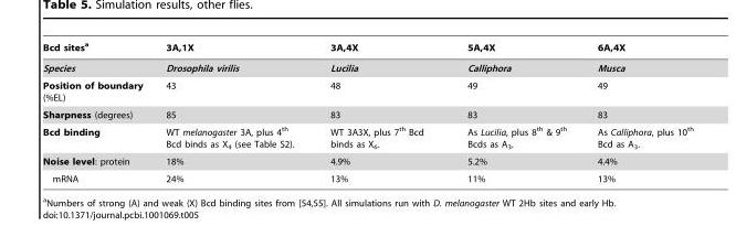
<table><thead><tr><td>Bcd sites<sup>a</sup></td><td>3A,1X</td><td>3A,4X</td><td>5A,4X</td><td>6A,4X</td></tr></thead><tbody><tr><td>Species</td><td>Drosophila virilis</td><td>Lucilia</td><td>Calliphora</td><td>Musca</td></tr><tr><td>Position of boundary (%EL)</td><td>43</td><td>48</td><td>49</td><td>49</td></tr><tr><td>Sharpness (degrees)</td><td>85</td><td>83</td><td>83</td><td>83</td></tr><tr><td>Bcd binding</td><td>WT melanogaster 3A, plus 4<sup>th</sup> Bcd binds as X<sub>4</sub> (see Table S2).</td><td>WT 3A3X, plus 7<sup>th</sup> Bcd binds as X<sub>6</sub>.</td><td>As Lucilia, plus 8<sup>th</sup> &amp; 9<sup>th</sup> Bcds as A<sub>3</sub>.</td><td>As Calliphora, plus 10<sup>th</sup> Bcd as A<sub>3</sub>.</td></tr><tr><td>Noise level: protein</td><td>18%</td><td>4.9%</td><td>5.2%</td><td>4.4%</td></tr><tr><td>mRNA</td><td>24%</td><td>13%</td><td>11%</td><td>13%</td></tr></tbody></table>